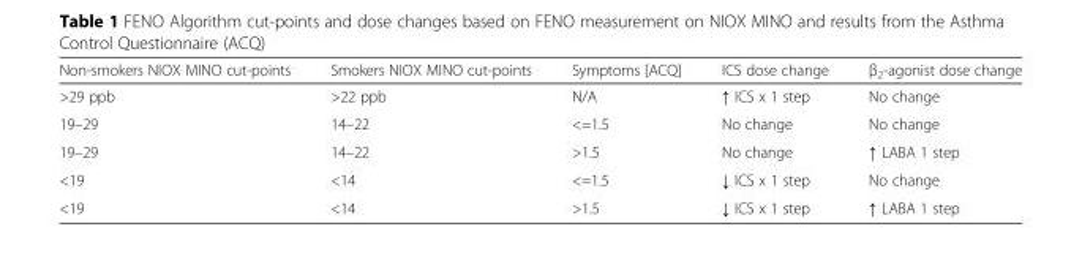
<table><thead><tr><td>Non-smokers NIOX MINO cut-points</td><td>Smokers NIOX MINO cut-points</td><td>Symptoms [ACQ]</td><td>ICS dose change</td><td>β<sub>2</sub>-agonist dose change</td></tr></thead><tbody><tr><td>&gt;29 ppb</td><td>&gt;22 ppb</td><td>N/A</td><td>↑ ICS x 1 step</td><td>No change</td></tr><tr><td>19–29</td><td>14–22</td><td>&lt;=1.5</td><td>No change</td><td>No change</td></tr><tr><td>19–29</td><td>14–22</td><td>&gt;1.5</td><td>No change</td><td>↑ LABA 1 step</td></tr><tr><td>&lt;19</td><td>&lt;14</td><td>&lt;=1.5</td><td>↓ ICS x 1 step</td><td>No change</td></tr><tr><td>&lt;19</td><td>&lt;14</td><td>&gt;1.5</td><td>↓ ICS x 1 step</td><td>↑ LABA 1 step</td></tr></tbody></table>